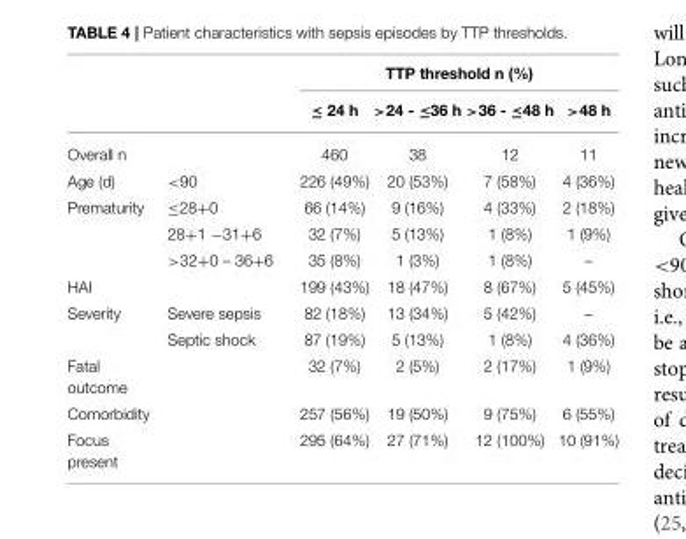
<table><thead><tr><td rowspan="2"></td><td rowspan="2"></td><td colspan="4">TTP threshold n (%)</td></tr><tr><td>≤ 24 h</td><td>&gt;24 - ≤36 h</td><td>&gt;36 - ≤48 h</td><td>&gt;48 h</td></tr></thead><tbody><tr><td colspan="2">Overall n</td><td>460</td><td>38</td><td>12</td><td>11</td></tr><tr><td>Age (d)</td><td>&lt;90</td><td>226 (49%)</td><td>20 (53%)</td><td>7 (58%)</td><td>4 (36%)</td></tr><tr><td rowspan="3">Prematurity</td><td>≤28+0</td><td>66 (14%)</td><td>9 (16%)</td><td>4 (33%)</td><td>2 (18%)</td></tr><tr><td>28+1 −31+6</td><td>32 (7%)</td><td>5 (13%)</td><td>1 (8%)</td><td>1 (9%)</td></tr><tr><td>&gt;32+0 – 36+6</td><td>35 (8%)</td><td>1 (3%)</td><td>1 (8%)</td><td>–</td></tr><tr><td>HAI</td><td></td><td>199 (43%)</td><td>18 (47%)</td><td>8 (67%)</td><td>5 (45%)</td></tr><tr><td rowspan="2">Severity</td><td>Severe sepsis</td><td>82 (18%)</td><td>13 (34%)</td><td>5 (42%)</td><td>–</td></tr><tr><td>Septic shock</td><td>87 (19%)</td><td>5 (13%)</td><td>1 (8%)</td><td>4 (36%)</td></tr><tr><td>Fatal outcome</td><td></td><td>32 (7%)</td><td>2 (5%)</td><td>2 (17%)</td><td>1 (9%)</td></tr><tr><td>Comorbidity</td><td></td><td>257 (56%)</td><td>19 (50%)</td><td>9 (75%)</td><td>6 (55%)</td></tr><tr><td>Focus present</td><td></td><td>295 (64%)</td><td>27 (71%)</td><td>12 (100%)</td><td>10 (91%)</td></tr></tbody></table>